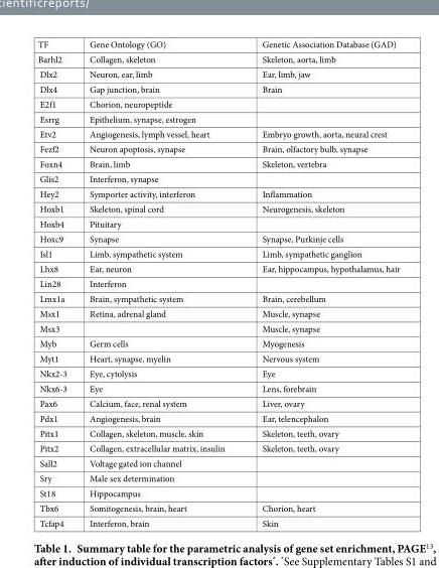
<table><tbody><tr><td>TF</td><td>Gene Ontology (GO)</td><td>Genetic Association Database (GAD)</td></tr><tr><td>Barhl2</td><td>Collagen, skeleton</td><td>Skeleton, aorta, limb</td></tr><tr><td>Dlx2</td><td>Neuron, ear, limb</td><td>Ear, limb, jaw</td></tr><tr><td>Dlx4</td><td>Gap junction, brain</td><td>Brain</td></tr><tr><td>E2f1</td><td>Chorion, neuropeptide</td><td></td></tr><tr><td>Esrrg</td><td>Epithelium, synapse, estrogen</td><td></td></tr><tr><td>Etv2</td><td>Angiogenesis, lymph vessel, heart</td><td>Embryo growth, aorta, neural crest</td></tr><tr><td>Fezf2</td><td>Neuron apoptosis, synapse</td><td>Brain, olfactory bulb, synapse</td></tr><tr><td>Foxn4</td><td>Brain, limb</td><td>Skeleton, vertebra</td></tr><tr><td>Glis2</td><td>Interferon, synapse</td><td></td></tr><tr><td>Hey2</td><td>Symporter activity, interferon</td><td>Inflammation</td></tr><tr><td>Hoxb1</td><td>Skeleton, spinal cord</td><td>Neurogenesis, skeleton</td></tr><tr><td>Hoxb4</td><td>Pituitary</td><td></td></tr><tr><td>Hoxc9</td><td>Synapse</td><td>Synapse, Purkinje cells</td></tr><tr><td>Isl1</td><td>Limb, sympathetic system</td><td>Limb, sympathetic ganglion</td></tr><tr><td>Lhx8</td><td>Ear, neuron</td><td>Ear, hippocampus, hypothalamus, hair</td></tr><tr><td>Lin28</td><td>Interferon</td><td></td></tr><tr><td>Lmx1a</td><td>Brain, sympathetic system</td><td>Brain, cerebellum</td></tr><tr><td>Msx1</td><td>Retina, adrenal gland</td><td>Muscle, synapse</td></tr><tr><td>Msx3</td><td></td><td>Muscle, synapse</td></tr><tr><td>Myb</td><td>Germ cells</td><td>Myogenesis</td></tr><tr><td>Myt1</td><td>Heart, synapse, myelin</td><td>Nervous system</td></tr><tr><td>Nkx2-3</td><td>Eye, cytolysis</td><td>Eye</td></tr><tr><td>Nkx6-3</td><td>Eye</td><td>Lens, forebrain</td></tr><tr><td>Pax6</td><td>Calcium, face, renal system</td><td>Liver, ovary</td></tr><tr><td>Pdx1</td><td>Angiogenesis, brain</td><td>Ear, telencephalon</td></tr><tr><td>Pitx1</td><td>Collagen, skeleton, muscle, skin</td><td>Skeleton, teeth, ovary</td></tr><tr><td>Pitx2</td><td>Collagen, extracellular matrix, insulin</td><td>Skeleton, teeth, ovary</td></tr><tr><td>Sall2</td><td>Voltage gated ion channel</td><td></td></tr><tr><td>Sry</td><td>Male sex determination</td><td></td></tr><tr><td>St18</td><td>Hippocampus</td><td></td></tr><tr><td>Tbx6</td><td>Somitogenesis, brain, heart</td><td>Chorion, heart</td></tr><tr><td>Tcfap4</td><td>Interferon, brain</td><td>Skin</td></tr></tbody></table>